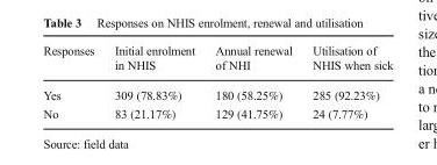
<table><thead><tr><td>Responses</td><td>Initial enrolment in NHIS</td><td>Annual renewal of NHI</td><td>Utilisation of NHIS when sick</td></tr></thead><tbody><tr><td>Yes</td><td>309 (78.83%)</td><td>180 (58.25%)</td><td>285 (92.23%)</td></tr><tr><td>No</td><td>83 (21.17%)</td><td>129 (41.75%)</td><td>24 (7.77%)</td></tr></tbody></table>